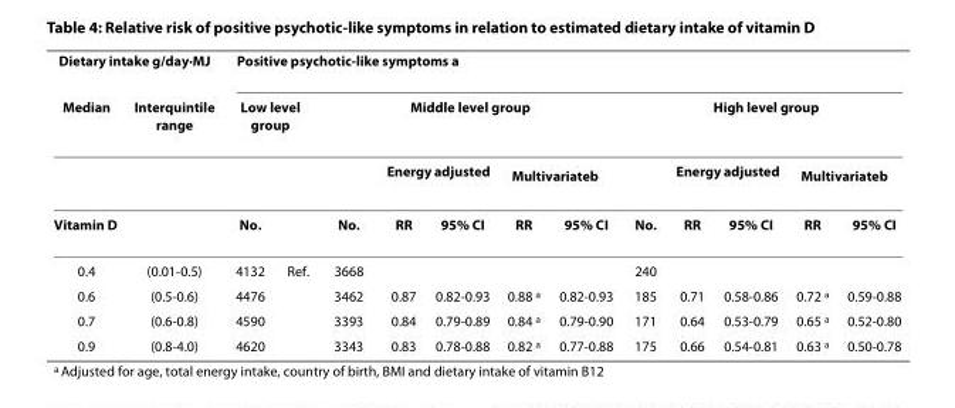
<table><thead><tr><td colspan="2">Dietary intake g/day·MJ</td><td colspan="12">Positive psychotic-like symptoms <sup>a</sup></td></tr><tr><td rowspan="3">Median Vitamin D</td><td rowspan="3">Interquintile range</td><td colspan="2">Low level group</td><td colspan="5">Middle level group</td><td colspan="5">High level group</td></tr><tr><td rowspan="2">No.</td><td rowspan="2"></td><td rowspan="2">No.</td><td colspan="2">Energy adjusted</td><td colspan="2">Multivariate<sup>b</sup></td><td rowspan="2">No.</td><td colspan="2">Energy adjusted</td><td colspan="2">Multivariate<sup>b</sup></td></tr><tr><td>RR</td><td>95% CI</td><td>RR</td><td>95% CI</td><td>RR</td><td>95% CI</td><td>RR</td><td>95% CI</td></tr></thead><tbody><tr><td>0.4</td><td>(0.01-0.5)</td><td>4132</td><td>Ref.</td><td>3668</td><td></td><td></td><td></td><td></td><td>240</td><td></td><td></td><td></td><td></td></tr><tr><td>0.6</td><td>(0.5-0.6)</td><td>4476</td><td></td><td>3462</td><td>0.87</td><td>0.82-0.93</td><td>0.88 <sup>a</sup></td><td>0.82-0.93</td><td>185</td><td>0.71</td><td>0.58-0.86</td><td>0.72 <sup>a</sup></td><td>0.59-0.88</td></tr><tr><td>0.7</td><td>(0.6-0.8)</td><td>4590</td><td></td><td>3393</td><td>0.84</td><td>0.79-0.89</td><td>0.84 <sup>a</sup></td><td>0.79-0.90</td><td>171</td><td>0.64</td><td>0.53-0.79</td><td>0.65 <sup>a</sup></td><td>0.52-0.80</td></tr><tr><td>0.9</td><td>(0.8-4.0)</td><td>4620</td><td></td><td>3343</td><td>0.83</td><td>0.78-0.88</td><td>0.82 <sup>a</sup></td><td>0.77-0.88</td><td>175</td><td>0.66</td><td>0.54-0.81</td><td>0.63 <sup>a</sup></td><td>0.50-0.78</td></tr></tbody></table>